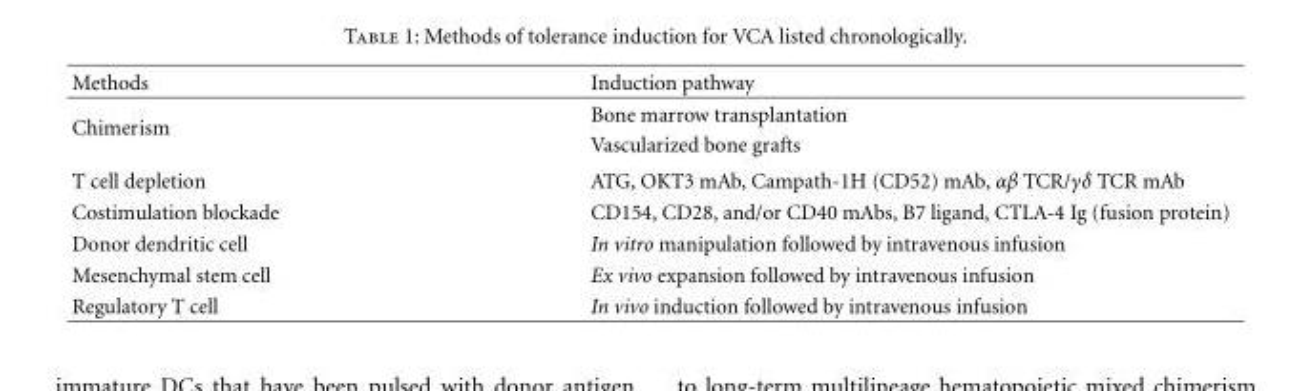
<table><thead><tr><td>Methods</td><td>Induction pathway</td></tr></thead><tbody><tr><td rowspan="2">Chimerism</td><td>Bone marrow transplantation</td></tr><tr><td>Vascularized bone grafts</td></tr><tr><td>T cell depletion</td><td>ATG, OKT3 mAb, Campath-1H (CD52) mAb, αβ TCR/γδ TCR mAb</td></tr><tr><td>Costimulation blockade</td><td>CD154, CD28, and/or CD40 mAbs, B7 ligand, CTLA-4 Ig (fusion protein)</td></tr><tr><td>Donor dendritic cell</td><td>In vitro manipulation followed by intravenous infusion</td></tr><tr><td>Mesenchymal stem cell</td><td>Ex vivo expansion followed by intravenous infusion</td></tr><tr><td>Regulatory T cell</td><td>In vivo induction followed by intravenous infusion</td></tr></tbody></table>